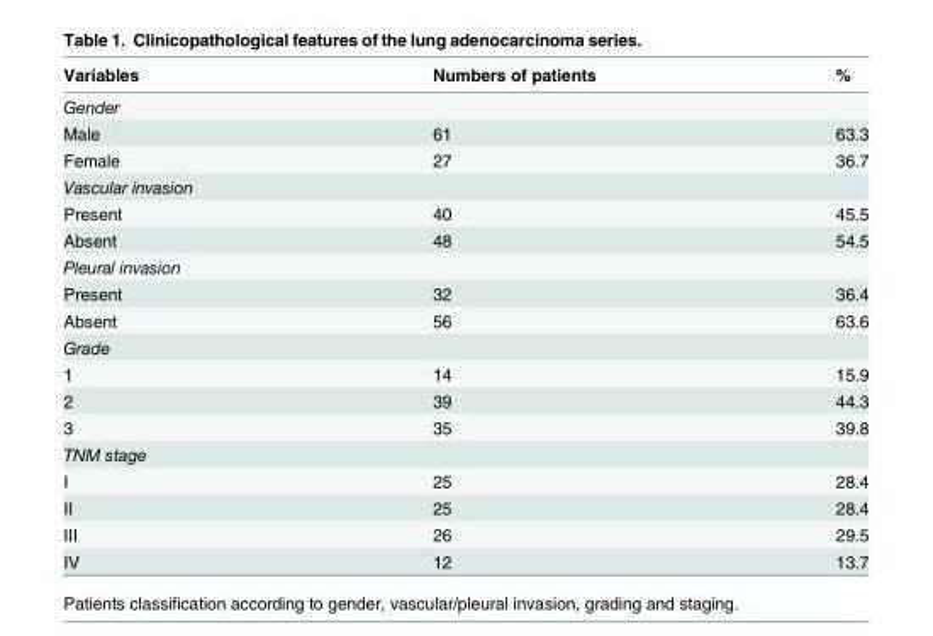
<table><thead><tr><td>Variables</td><td>Numbers of patients</td><td>%</td></tr></thead><tbody><tr><td colspan="3">Gender</td></tr><tr><td>Male</td><td>61</td><td>63.3</td></tr><tr><td>Female</td><td>27</td><td>36.7</td></tr><tr><td colspan="3">Vascular invasion</td></tr><tr><td>Present</td><td>40</td><td>45.5</td></tr><tr><td>Absent</td><td>48</td><td>54.5</td></tr><tr><td colspan="3">Pleural invasion</td></tr><tr><td>Present</td><td>32</td><td>36.4</td></tr><tr><td>Absent</td><td>56</td><td>63.6</td></tr><tr><td colspan="3">Grade</td></tr><tr><td>1</td><td>14</td><td>15.9</td></tr><tr><td>2</td><td>39</td><td>44.3</td></tr><tr><td>3</td><td>35</td><td>39.8</td></tr><tr><td colspan="3">TNM stage</td></tr><tr><td>I</td><td>25</td><td>28.4</td></tr><tr><td>II</td><td>25</td><td>28.4</td></tr><tr><td>III</td><td>26</td><td>29.5</td></tr><tr><td>IV</td><td>12</td><td>13.7</td></tr></tbody></table>